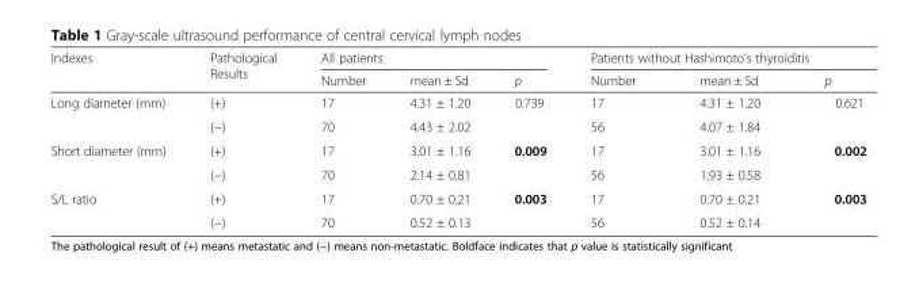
<table><thead><tr><td rowspan="2">Indexes</td><td rowspan="2">Pathological Results</td><td colspan="3">All patients</td><td colspan="3">Patients without Hashimoto’s thyroiditis</td></tr><tr><td>Number</td><td>mean ± Sd</td><td>p</td><td>Number</td><td>mean ± Sd</td><td>p</td></tr></thead><tbody><tr><td rowspan="2">Long diameter (mm)</td><td>(+)</td><td>17</td><td>4.31 ± 1.20</td><td rowspan="2">0.739</td><td>17</td><td>4.31 ± 1.20</td><td rowspan="2">0.621</td></tr><tr><td>(−)</td><td>70</td><td>4.43 ± 2.02</td><td>56</td><td>4.07 ± 1.84</td></tr><tr><td rowspan="2">Short diameter (mm)</td><td>(+)</td><td>17</td><td>3.01 ± 1.16</td><td rowspan="2">0.009</td><td>17</td><td>3.01 ± 1.16</td><td rowspan="2">0.002</td></tr><tr><td>(−)</td><td>70</td><td>2.14 ± 0.81</td><td>56</td><td>1.93 ± 0.58</td></tr><tr><td rowspan="2">S/L ratio</td><td>(+)</td><td>17</td><td>0.70 ± 0.21</td><td rowspan="2">0.003</td><td>17</td><td>0.70 ± 0.21</td><td rowspan="2">0.003</td></tr><tr><td>(−)</td><td>70</td><td>0.52 ± 0.13</td><td>56</td><td>0.52 ± 0.14</td></tr></tbody></table>